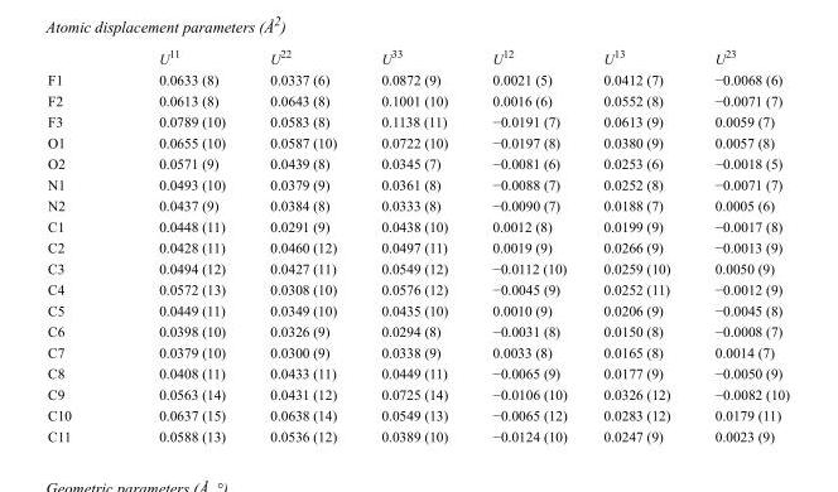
<table><thead><tr><td></td><td>U<sup>11</sup></td><td>U<sup>22</sup></td><td>U<sup>33</sup></td><td>U<sup>12</sup></td><td>U<sup>13</sup></td><td>U<sup>23</sup></td></tr></thead><tbody><tr><td>F1</td><td>0.0633 (8)</td><td>0.0337 (6)</td><td>0.0872 (9)</td><td>0.0021 (5)</td><td>0.0412 (7)</td><td>−0.0068 (6)</td></tr><tr><td>F2</td><td>0.0613 (8)</td><td>0.0643 (8)</td><td>0.1001 (10)</td><td>0.0016 (6)</td><td>0.0552 (8)</td><td>−0.0071 (7)</td></tr><tr><td>F3</td><td>0.0789 (10)</td><td>0.0583 (8)</td><td>0.1138 (11)</td><td>−0.0191 (7)</td><td>0.0613 (9)</td><td>0.0059 (7)</td></tr><tr><td>O1</td><td>0.0655 (10)</td><td>0.0587 (10)</td><td>0.0722 (10)</td><td>−0.0197 (8)</td><td>0.0380 (9)</td><td>0.0057 (8)</td></tr><tr><td>O2</td><td>0.0571 (9)</td><td>0.0439 (8)</td><td>0.0345 (7)</td><td>−0.0081 (6)</td><td>0.0253 (6)</td><td>−0.0018 (5)</td></tr><tr><td>N1</td><td>0.0493 (10)</td><td>0.0379 (9)</td><td>0.0361 (8)</td><td>−0.0088 (7)</td><td>0.0252 (8)</td><td>−0.0071 (7)</td></tr><tr><td>N2</td><td>0.0437 (9)</td><td>0.0384 (8)</td><td>0.0333 (8)</td><td>−0.0090 (7)</td><td>0.0188 (7)</td><td>0.0005 (6)</td></tr><tr><td>C1</td><td>0.0448 (11)</td><td>0.0291 (9)</td><td>0.0438 (10)</td><td>0.0012 (8)</td><td>0.0199 (9)</td><td>−0.0017 (8)</td></tr><tr><td>C2</td><td>0.0428 (11)</td><td>0.0460 (12)</td><td>0.0497 (11)</td><td>0.0019 (9)</td><td>0.0266 (9)</td><td>−0.0013 (9)</td></tr><tr><td>C3</td><td>0.0494 (12)</td><td>0.0427 (11)</td><td>0.0549 (12)</td><td>−0.0112 (10)</td><td>0.0259 (10)</td><td>0.0050 (9)</td></tr><tr><td>C4</td><td>0.0572 (13)</td><td>0.0308 (10)</td><td>0.0576 (12)</td><td>−0.0045 (9)</td><td>0.0252 (11)</td><td>−0.0012 (9)</td></tr><tr><td>C5</td><td>0.0449 (11)</td><td>0.0349 (10)</td><td>0.0435 (10)</td><td>0.0010 (9)</td><td>0.0206 (9)</td><td>−0.0045 (8)</td></tr><tr><td>C6</td><td>0.0398 (10)</td><td>0.0326 (9)</td><td>0.0294 (8)</td><td>−0.0031 (8)</td><td>0.0150 (8)</td><td>−0.0008 (7)</td></tr><tr><td>C7</td><td>0.0379 (10)</td><td>0.0300 (9)</td><td>0.0338 (9)</td><td>0.0033 (8)</td><td>0.0165 (8)</td><td>0.0014 (7)</td></tr><tr><td>C8</td><td>0.0408 (11)</td><td>0.0433 (11)</td><td>0.0449 (11)</td><td>−0.0065 (9)</td><td>0.0177 (9)</td><td>−0.0050 (9)</td></tr><tr><td>C9</td><td>0.0563 (14)</td><td>0.0431 (12)</td><td>0.0725 (14)</td><td>−0.0106 (10)</td><td>0.0326 (12)</td><td>−0.0082 (10)</td></tr><tr><td>C10</td><td>0.0637 (15)</td><td>0.0638 (14)</td><td>0.0549 (13)</td><td>−0.0065 (12)</td><td>0.0283 (12)</td><td>0.0179 (11)</td></tr><tr><td>C11</td><td>0.0588 (13)</td><td>0.0536 (12)</td><td>0.0389 (10)</td><td>−0.0124 (10)</td><td>0.0247 (9)</td><td>0.0023 (9)</td></tr></tbody></table>